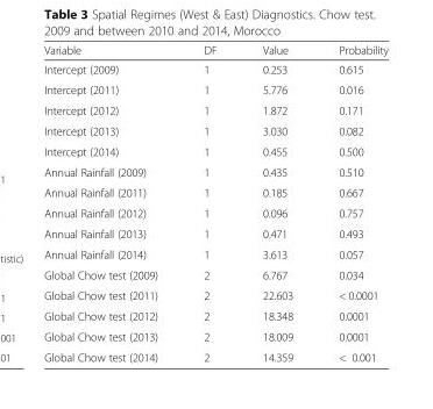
<table><thead><tr><td>Variable</td><td>DF</td><td>Value</td><td>Probability</td></tr></thead><tbody><tr><td>Intercept (2009)</td><td>1</td><td>0.253</td><td>0.615</td></tr><tr><td>Intercept (2011)</td><td>1</td><td>5.776</td><td>0.016</td></tr><tr><td>Intercept (2012)</td><td>1</td><td>1.872</td><td>0.171</td></tr><tr><td>Intercept (2013)</td><td>1</td><td>3.030</td><td>0.082</td></tr><tr><td>Intercept (2014)</td><td>1</td><td>0.455</td><td>0.500</td></tr><tr><td>Annual Rainfall (2009)</td><td>1</td><td>0.435</td><td>0.510</td></tr><tr><td>Annual Rainfall (2011)</td><td>1</td><td>0.185</td><td>0.667</td></tr><tr><td>Annual Rainfall (2012)</td><td>1</td><td>0.096</td><td>0.757</td></tr><tr><td>Annual Rainfall (2013)</td><td>1</td><td>0.471</td><td>0.493</td></tr><tr><td>Annual Rainfall (2014)</td><td>1</td><td>3.613</td><td>0.057</td></tr><tr><td>Global Chow test (2009)</td><td>2</td><td>6.767</td><td>0.034</td></tr><tr><td>Global Chow test (2011)</td><td>2</td><td>22.603</td><td>&lt; 0.0001</td></tr><tr><td>Global Chow test (2012)</td><td>2</td><td>18.348</td><td>0.0001</td></tr><tr><td>Global Chow test (2013)</td><td>2</td><td>18.009</td><td>0.0001</td></tr><tr><td>Global Chow test (2014)</td><td>2</td><td>14.359</td><td>&lt; 0.001</td></tr></tbody></table>